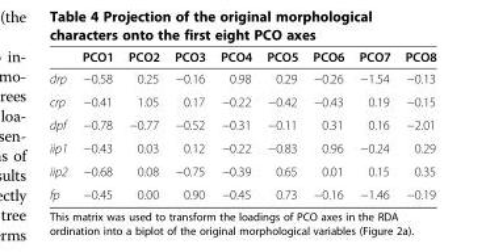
<table><thead><tr><td></td><td>PCO1</td><td>PCO2</td><td>PCO3</td><td>PCO4</td><td>PCO5</td><td>PCO6</td><td>PCO7</td><td>PCO8</td></tr></thead><tbody><tr><td>drp</td><td>−0.58</td><td>0.25</td><td>−0.16</td><td>0.98</td><td>0.29</td><td>−0.26</td><td>−1.54</td><td>−0.13</td></tr><tr><td>crp</td><td>−0.41</td><td>1.05</td><td>0.17</td><td>−0.22</td><td>−0.42</td><td>−0.43</td><td>0.19</td><td>−0.15</td></tr><tr><td>dpf</td><td>−0.78</td><td>−0.77</td><td>−0.52</td><td>−0.31</td><td>−0.11</td><td>0.31</td><td>0.16</td><td>−2.01</td></tr><tr><td>iip1</td><td>−0.43</td><td>0.03</td><td>0.12</td><td>−0.22</td><td>−0.83</td><td>0.96</td><td>−0.24</td><td>0.29</td></tr><tr><td>iip2</td><td>−0.68</td><td>0.08</td><td>−0.75</td><td>−0.39</td><td>0.65</td><td>0.01</td><td>0.15</td><td>0.35</td></tr><tr><td>fp</td><td>−0.45</td><td>0.00</td><td>0.90</td><td>−0.45</td><td>0.73</td><td>−0.16</td><td>−1.46</td><td>−0.19</td></tr></tbody></table>